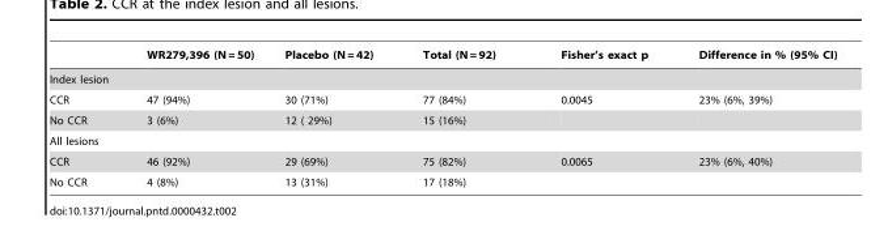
<table><thead><tr><td></td><td>WR279,396 (N = 50)</td><td>Placebo (N = 42)</td><td>Total (N = 92)</td><td>Fisher’s exact p</td><td>Difference in % (95% CI)</td></tr></thead><tbody><tr><td colspan="6">Index lesion</td></tr><tr><td>CCR</td><td>47 (94%)</td><td>30 (71%)</td><td>77 (84%)</td><td>0.0045</td><td>23% (6%, 39%)</td></tr><tr><td>No CCR</td><td>3 (6%)</td><td>12 ( 29%)</td><td>15 (16%)</td><td></td><td></td></tr><tr><td colspan="6">All lesions</td></tr><tr><td>CCR</td><td>46 (92%)</td><td>29 (69%)</td><td>75 (82%)</td><td>0.0065</td><td>23% (6%, 40%)</td></tr><tr><td>No CCR</td><td>4 (8%)</td><td>13 (31%)</td><td>17 (18%)</td><td></td><td></td></tr></tbody></table>